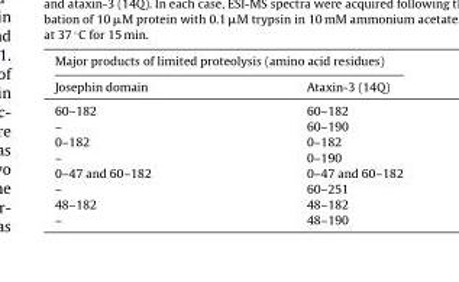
<table><thead><tr><td colspan="2">Major products of limited proteolysis (amino acid residues)</td></tr><tr><td>Josephin domain</td><td>Ataxin-3 (14Q)</td></tr></thead><tbody><tr><td>60–182</td><td>60–182</td></tr><tr><td>–</td><td>60–190</td></tr><tr><td>0–182</td><td>0–182</td></tr><tr><td>–</td><td>0–190</td></tr><tr><td>0–47 and 60–182</td><td>0–47 and 60–182</td></tr><tr><td>–</td><td>60–251</td></tr><tr><td>48–182</td><td>48–182</td></tr><tr><td>–</td><td>48–190</td></tr></tbody></table>